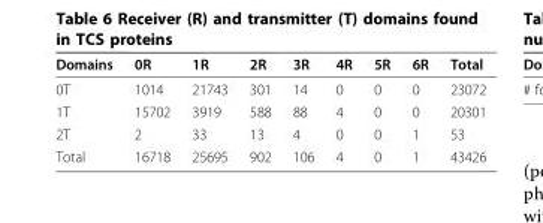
<table><thead><tr><td>Domains</td><td>0R</td><td>1R</td><td>2R</td><td>3R</td><td>4R</td><td>5R</td><td>6R</td><td>Total</td></tr></thead><tbody><tr><td>0T</td><td>1014</td><td>21743</td><td>301</td><td>14</td><td>0</td><td>0</td><td>0</td><td>23072</td></tr><tr><td>1T</td><td>15702</td><td>3919</td><td>588</td><td>88</td><td>4</td><td>0</td><td>0</td><td>20301</td></tr><tr><td>2T</td><td>2</td><td>33</td><td>13</td><td>4</td><td>0</td><td>0</td><td>1</td><td>53</td></tr><tr><td>Total</td><td>16718</td><td>25695</td><td>902</td><td>106</td><td>4</td><td>0</td><td>1</td><td>43426</td></tr></tbody></table>